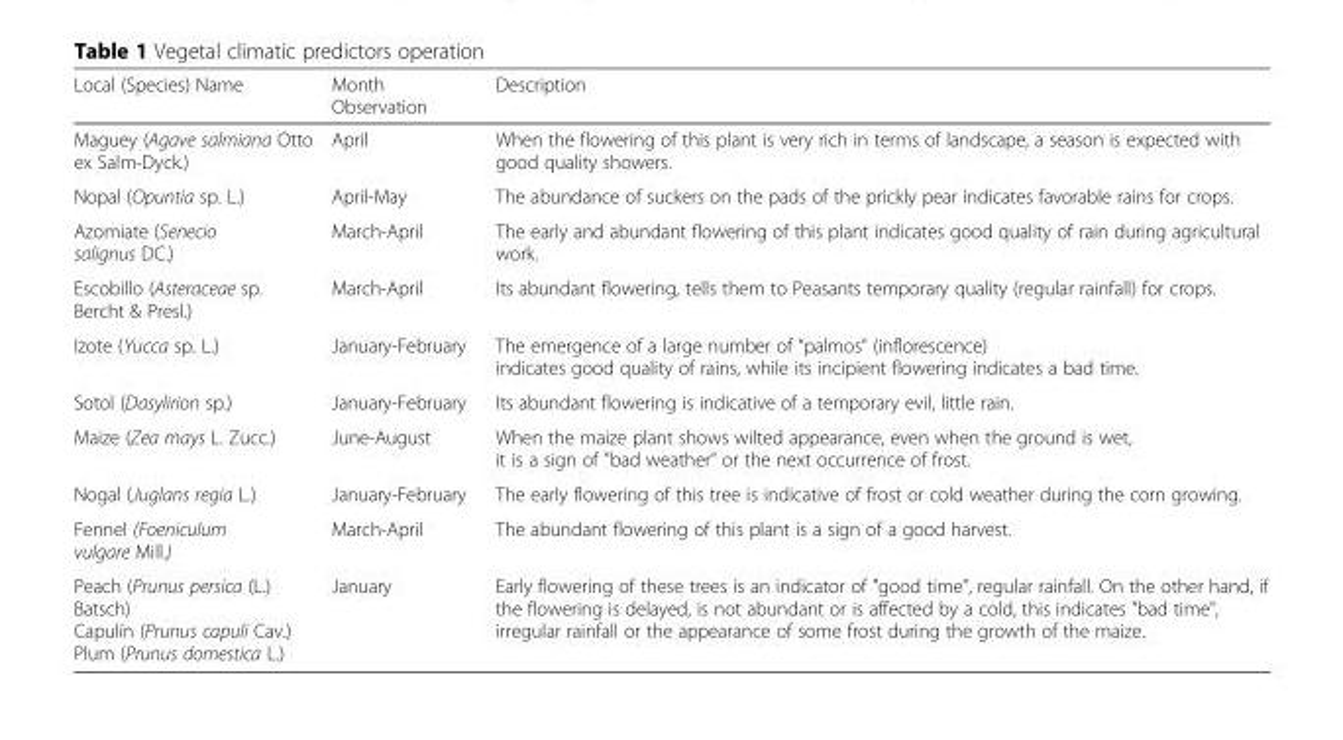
<table><thead><tr><td>Local (Species) Name</td><td>Month Observation</td><td>Description</td></tr></thead><tbody><tr><td>Maguey (Agave salmiana Otto ex Salm-Dyck.)</td><td>April</td><td>When the flowering of this plant is very rich in terms of landscape, a season is expected with good quality showers.</td></tr><tr><td>Nopal (Opuntia sp. L.)</td><td>April-May</td><td>The abundance of suckers on the pads of the prickly pear indicates favorable rains for crops.</td></tr><tr><td>Azomiate (Senecio salignus DC.)</td><td>March-April</td><td>The early and abundant flowering of this plant indicates good quality of rain during agricultural work.</td></tr><tr><td>Escobillo (Asteraceae sp. Bercht &amp; Presl.)</td><td>March-April</td><td>Its abundant flowering, tells them to Peasants temporary quality (regular rainfall) for crops.</td></tr><tr><td>Izote (Yucca sp. L.)</td><td>January-February</td><td>The emergence of a large number of “palmos” (inflorescence) indicates good quality of rains, while its incipient flowering indicates a bad time.</td></tr><tr><td>Sotol (Dasylirion sp.)</td><td>January-February</td><td>Its abundant flowering is indicative of a temporary evil, little rain.</td></tr><tr><td>Maize (Zea mays L. Zucc.)</td><td>June-August</td><td>When the maize plant shows wilted appearance, even when the ground is wet, it is a sign of &quot;bad weather&quot; or the next occurrence of frost.</td></tr><tr><td>Nogal (Juglans regia L.)</td><td>January-February</td><td>The early flowering of this tree is indicative of frost or cold weather during the corn growing.</td></tr><tr><td>Fennel (Foeniculum vulgare Mill.)</td><td>March-April</td><td>The abundant flowering of this plant is a sign of a good harvest.</td></tr><tr><td>Peach (Prunus persica (L.) Batsch) Capulín (Prunus capuli Cav.) Plum (Prunus domestica L.)</td><td>January</td><td>Early flowering of these trees is an indicator of &quot;good time&quot;, regular rainfall. On the other hand, if the flowering is delayed, is not abundant or is affected by a cold, this indicates &quot;bad time&quot;, irregular rainfall or the appearance of some frost during the growth of the maize.</td></tr></tbody></table>